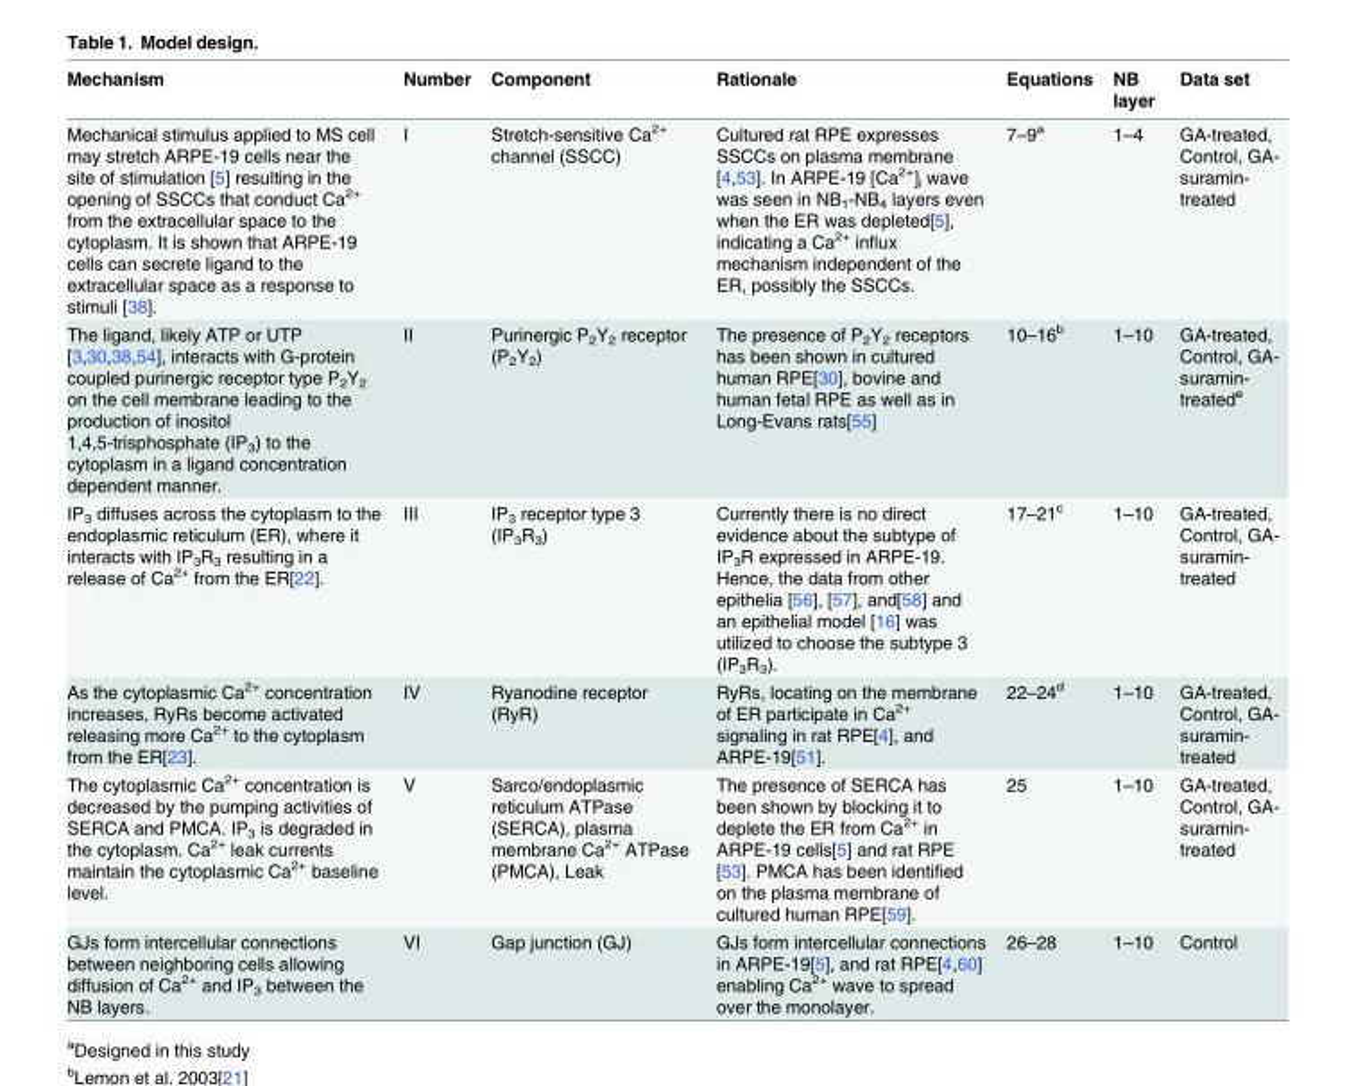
<table><thead><tr><td>Mechanism</td><td>Number</td><td>Component</td><td>Rationale</td><td>Equations</td><td>NB layer</td><td>Data set</td></tr></thead><tbody><tr><td>Mechanical stimulus applied to MS cell may stretch ARPE-19 cells near the site of stimulation [5] resulting in the opening of SSCCs that conduct Ca<sup>2+</sup> from the extracellular space to the cytoplasm. It is shown that ARPE-19 cells can secrete ligand to the extracellular space as a response to stimuli [38].</td><td>I</td><td>Stretch-sensitive Ca<sup>2+</sup> channel (SSCC)</td><td>Cultured rat RPE expresses SSCCs on plasma membrane [4,53]. In ARPE-19 [Ca<sup>2+</sup>]<sub>i</sub> wave was seen in NB<sub>1</sub>-NB<sub>4</sub> layers even when the ER was depleted[5], indicating a Ca<sup>2+</sup> influx mechanism independent of the ER, possibly the SSCCs.</td><td>7–9<sup>a</sup></td><td>1–4</td><td>GA-treated, Control, GA- suramin- treated</td></tr><tr><td>The ligand, likely ATP or UTP [3,30,38,54], interacts with G-protein coupled purinergic receptor type P<sub>2</sub>Y<sub>2</sub> on the cell membrane leading to the production of inositol 1,4,5-trisphosphate (IP<sub>3</sub>) to the cytoplasm in a ligand concentration dependent manner.</td><td>II</td><td>Purinergic P<sub>2</sub>Y<sub>2</sub> receptor (P<sub>2</sub>Y<sub>2</sub>)</td><td>The presence of P<sub>2</sub>Y<sub>2</sub> receptors has been shown in cultured human RPE[30], bovine and human fetal RPE as well as in Long-Evans rats[55]</td><td>10–16<sup>b</sup></td><td>1–10</td><td>GA-treated, Control, GA- suramin- treated<sup>e</sup></td></tr><tr><td>IP<sub>3</sub> diffuses across the cytoplasm to the endoplasmic reticulum (ER), where it interacts with IP<sub>3</sub>R<sub>3</sub> resulting in a release of Ca<sup>2+</sup> from the ER[22].</td><td>III</td><td>IP<sub>3</sub> receptor type 3 (IP<sub>3</sub>R<sub>3</sub>)</td><td>Currently there is no direct evidence about the subtype of IP<sub>3</sub>R expressed in ARPE-19. Hence, the data from other epithelia [56], [57], and[58] and an epithelial model [16] was utilized to choose the subtype 3 (IP<sub>3</sub>R<sub>3</sub>).</td><td>17–21<sup>c</sup></td><td>1–10</td><td>GA-treated, Control, GA- suramin- treated</td></tr><tr><td>As the cytoplasmic Ca<sup>2+</sup> concentration increases, RyRs become activated releasing more Ca<sup>2+</sup> to the cytoplasm from the ER[23].</td><td>IV</td><td>Ryanodine receptor (RyR)</td><td>RyRs, locating on the membrane of ER participate in Ca<sup>2+</sup> signaling in rat RPE[4], and ARPE-19[51].</td><td>22–24<sup>d</sup></td><td>1–10</td><td>GA-treated, Control, GA- suramin- treated</td></tr><tr><td>The cytoplasmic Ca<sup>2+</sup> concentration is decreased by the pumping activities of SERCA and PMCA. IP<sub>3</sub> is degraded in the cytoplasm. Ca<sup>2+</sup> leak currents maintain the cytoplasmic Ca<sup>2+</sup> baseline level.</td><td>V</td><td>Sarco/endoplasmic reticulum ATPase (SERCA), plasma membrane Ca<sup>2+</sup> ATPase (PMCA), Leak</td><td>The presence of SERCA has been shown by blocking it to deplete the ER from Ca<sup>2+</sup> in ARPE-19 cells[5] and rat RPE [53]. PMCA has been identified on the plasma membrane of cultured human RPE[59].</td><td>25</td><td>1–10</td><td>GA-treated, Control, GA- suramin- treated</td></tr><tr><td>GJs form intercellular connections between neighboring cells allowing diffusion of Ca<sup>2+</sup> and IP<sub>3</sub> between the NB layers.</td><td>VI</td><td>Gap junction (GJ)</td><td>GJs form intercellular connections in ARPE-19[5], and rat RPE[4,60] enabling Ca<sup>2+</sup> wave to spread over the monolayer.</td><td>26–28</td><td>1–10</td><td>Control</td></tr></tbody></table>